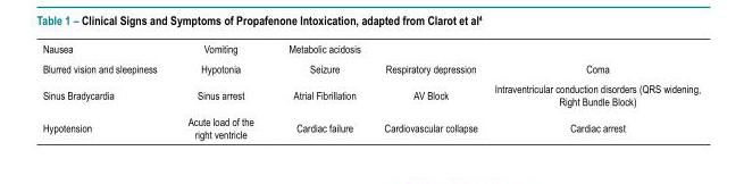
<table><tbody><tr><td>Nausea</td><td>Vomiting</td><td>Metabolic acidosis</td><td></td><td></td></tr><tr><td>Blurred vision and sleepiness</td><td>Hypotonia</td><td>Seizure</td><td>Respiratory depression</td><td>Coma</td></tr><tr><td>Sinus Bradycardia</td><td>Sinus arrest</td><td>Atrial Fibrillation</td><td>AV Block</td><td>Intraventricular conduction disorders (QRS widening, Right Bundle Block)</td></tr><tr><td>Hypotension</td><td>Acute load of the right ventricle</td><td>Cardiac failure</td><td>Cardiovascular collapse</td><td>Cardiac arrest</td></tr></tbody></table>